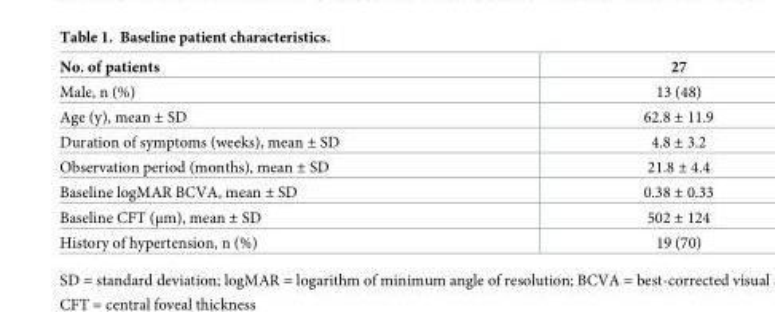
<table><thead><tr><td>No. of patients</td><td>27</td></tr></thead><tbody><tr><td>Male, n (%)</td><td>13 (48)</td></tr><tr><td>Age (y), mean ± SD</td><td>62.8 ± 11.9</td></tr><tr><td>Duration of symptoms (weeks), mean ± SD</td><td>4.8 ± 3.2</td></tr><tr><td>Observation period (months), mean ± SD</td><td>21.8 ± 4.4</td></tr><tr><td>Baseline logMAR BCVA, mean ± SD</td><td>0.38 ± 0.33</td></tr><tr><td>Baseline CFT (μm), mean ± SD</td><td>502 ± 124</td></tr><tr><td>History of hypertension, n (%)</td><td>19 (70)</td></tr></tbody></table>